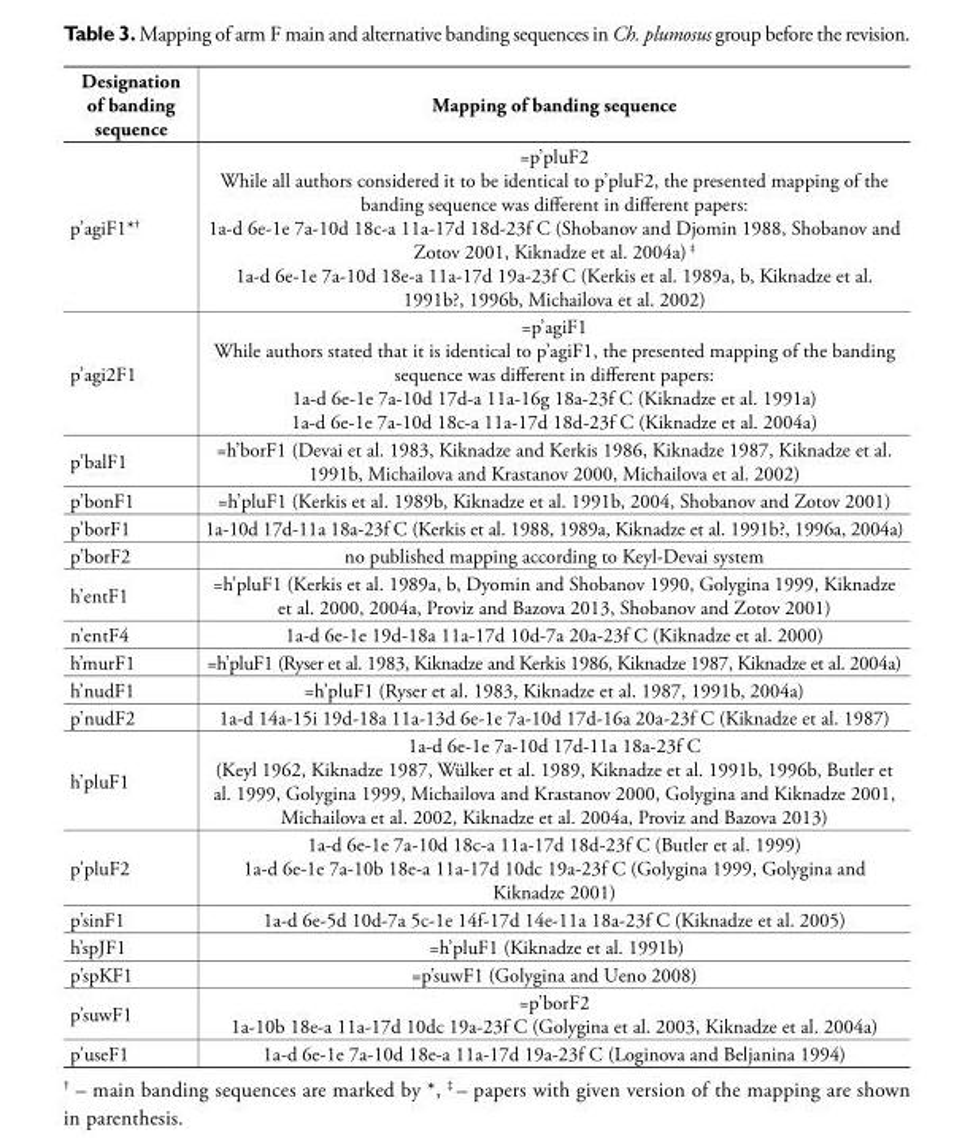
<table><thead><tr><td>Designation of banding sequence</td><td>Mapping of banding sequence</td></tr></thead><tbody><tr><td>p’agiF1*<sup>†</sup></td><td>=p’pluF2 While all authors considered it to be identical to p’pluF2, the presented mapping of the banding sequence was different in different papers: 1a-d 6e-1e 7a-10d 18c-a 11a-17d 18d-23f C (Shobanov and Djomin 1988, Shobanov and Zotov 2001, Kiknadze et al. 2004a) <sup>‡</sup> 1a-d 6e-1e 7a-10d 18e-a 11a-17d 19a-23f C (Kerkis et al. 1989a, b, Kiknadze et al. 1991b?, 1996b, Michailova et al. 2002)</td></tr><tr><td>p’agi2F1</td><td>=p’agiF1 While authors stated that it is identical to p’agiF1, the presented mapping of the banding sequence was different in different papers: 1a-d 6e-1e 7a-10d 17d-a 11a-16g 18a-23f C (Kiknadze et al. 1991a) 1a-d 6e-1e 7a-10d 18c-a 11a-17d 18d-23f C (Kiknadze et al. 2004a)</td></tr><tr><td>p’balF1</td><td>=h’borF1 (Devai et al. 1983, Kiknadze and Kerkis 1986, Kiknadze 1987, Kiknadze et al. 1991b, Michailova and Krastanov 2000, Michailova et al. 2002)</td></tr><tr><td>p’bonF1</td><td>=h’pluF1 (Kerkis et al. 1989b, Kiknadze et al. 1991b, 2004, Shobanov and Zotov 2001)</td></tr><tr><td>p’borF1</td><td>1a-10d 17d-11a 18a-23f C (Kerkis et al. 1988, 1989a, Kiknadze et al. 1991b?, 1996a, 2004a)</td></tr><tr><td>p’borF2</td><td>no published mapping according to Keyl-Devai system</td></tr><tr><td>h’entF1</td><td>=h’pluF1 (Kerkis et al. 1989a, b, Dyomin and Shobanov 1990, Golygina 1999, Kiknadze et al. 2000, 2004a, Proviz and Bazova 2013, Shobanov and Zotov 2001)</td></tr><tr><td>n’entF4</td><td>1a-d 6e-1e 19d-18a 11a-17d 10d-7a 20a-23f C (Kiknadze et al. 2000)</td></tr><tr><td>h’murF1</td><td>=h’pluF1 (Ryser et al. 1983, Kiknadze and Kerkis 1986, Kiknadze 1987, Kiknadze et al. 2004a)</td></tr><tr><td>h’nudF1</td><td>=h’pluF1 (Ryser et al. 1983, Kiknadze et al. 1987, 1991b, 2004a)</td></tr><tr><td>p’nudF2</td><td>1a-d 14a-15i 19d-18a 11a-13d 6e-1e 7a-10d 17d-16a 20a-23f C (Kiknadze et al. 1987)</td></tr><tr><td>h’pluF1</td><td>1a-d 6e-1e 7a-10d 17d-11a 18a-23f C (Keyl 1962, Kiknadze 1987, Wülker et al. 1989, Kiknadze et al. 1991b, 1996b, Butler et al. 1999, Golygina 1999, Michailova and Krastanov 2000, Golygina and Kiknadze 2001, Michailova et al. 2002, Kiknadze et al. 2004a, Proviz and Bazova 2013)</td></tr><tr><td>p’pluF2</td><td>1a-d 6e-1e 7a-10d 18c-a 11a-17d 18d-23f C (Butler et al. 1999) 1a-d 6e-1e 7a-10b 18e-a 11a-17d 10dc 19a-23f C (Golygina 1999, Golygina and Kiknadze 2001)</td></tr><tr><td>p’sinF1</td><td>1a-d 6e-5d 10d-7a 5c-1e 14f-17d 14e-11a 18a-23f C (Kiknadze et al. 2005)</td></tr><tr><td>h’spJF1</td><td>=h’pluF1 (Kiknadze et al. 1991b)</td></tr><tr><td>p’spKF1</td><td>=p’suwF1 (Golygina and Ueno 2008)</td></tr><tr><td>p’suwF1</td><td>=p’borF2 1a-10b 18e-a 11a-17d 10dc 19a-23f C (Golygina et al. 2003, Kiknadze et al. 2004a)</td></tr><tr><td>p’useF1</td><td>1a-d 6e-1e 7a-10d 18e-a 11a-17d 19a-23f C (Loginova and Beljanina 1994)</td></tr></tbody></table>